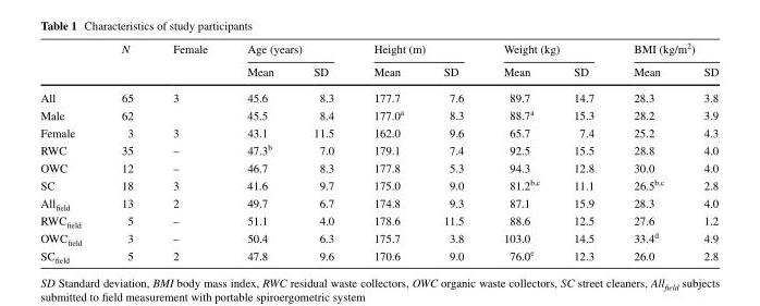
<table><thead><tr><td rowspan="2"></td><td rowspan="2">N</td><td rowspan="2">Female</td><td colspan="2">Age (years)</td><td colspan="2">Height (m)</td><td colspan="2">Weight (kg)</td><td colspan="2">BMI (kg/m<sup>2</sup>)</td></tr><tr><td>Mean</td><td>SD</td><td>Mean</td><td>SD</td><td>Mean</td><td>SD</td><td>Mean</td><td>SD</td></tr></thead><tbody><tr><td>All</td><td>65</td><td>3</td><td>45.6</td><td>8.3</td><td>177.7</td><td>7.6</td><td>89.7</td><td>14.7</td><td>28.3</td><td>3.8</td></tr><tr><td>Male</td><td>62</td><td></td><td>45.5</td><td>8.4</td><td>177.0<sup>a</sup></td><td>8.3</td><td>88.7<sup>a</sup></td><td>15.3</td><td>28.2</td><td>3.9</td></tr><tr><td>Female</td><td>3</td><td>3</td><td>43.1</td><td>11.5</td><td>162.0</td><td>9.6</td><td>65.7</td><td>7.4</td><td>25.2</td><td>4.3</td></tr><tr><td>RWC</td><td>35</td><td>–</td><td>47.3<sup>b</sup></td><td>7.0</td><td>179.1</td><td>7.4</td><td>92.5</td><td>15.5</td><td>28.8</td><td>4.0</td></tr><tr><td>OWC</td><td>12</td><td>–</td><td>46.7</td><td>8.3</td><td>177.8</td><td>5.3</td><td>94.3</td><td>12.8</td><td>30.0</td><td>4.0</td></tr><tr><td>SC</td><td>18</td><td>3</td><td>41.6</td><td>9.7</td><td>175.0</td><td>9.0</td><td>81.2<sup>b,c</sup></td><td>11.1</td><td>26.5<sup>b,c</sup></td><td>2.8</td></tr><tr><td>All<sub>field</sub></td><td>13</td><td>2</td><td>49.7</td><td>6.7</td><td>174.8</td><td>9.3</td><td>87.1</td><td>15.9</td><td>28.3</td><td>4.0</td></tr><tr><td>RWC<sub>field</sub></td><td>5</td><td>–</td><td>51.1</td><td>4.0</td><td>178.6</td><td>11.5</td><td>88.6</td><td>12.5</td><td>27.6</td><td>1.2</td></tr><tr><td>OWC<sub>field</sub></td><td>3</td><td>–</td><td>50.4</td><td>6.3</td><td>175.7</td><td>3.8</td><td>103.0</td><td>14.5</td><td>33.4<sup>d</sup></td><td>4.9</td></tr><tr><td>SC<sub>field</sub></td><td>5</td><td>2</td><td>47.8</td><td>9.6</td><td>170.6</td><td>9.0</td><td>76.0<sup>e</sup></td><td>12.3</td><td>26.0</td><td>2.8</td></tr></tbody></table>